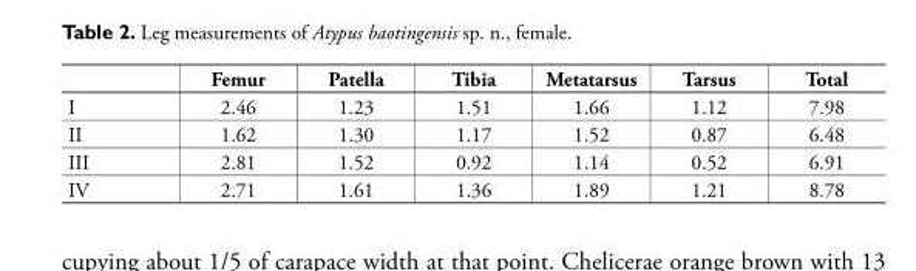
<table><thead><tr><td></td><td>Femur</td><td>Patella</td><td>Tibia</td><td>Metatarsus</td><td>Tarsus</td><td>Total</td></tr></thead><tbody><tr><td>I</td><td>2.46</td><td>1.23</td><td>1.51</td><td>1.66</td><td>1.12</td><td>7.98</td></tr><tr><td>II</td><td>1.62</td><td>1.30</td><td>1.17</td><td>1.52</td><td>0.87</td><td>6.48</td></tr><tr><td>III</td><td>2.81</td><td>1.52</td><td>0.92</td><td>1.14</td><td>0.52</td><td>6.91</td></tr><tr><td>IV</td><td>2.71</td><td>1.61</td><td>1.36</td><td>1.89</td><td>1.21</td><td>8.78</td></tr></tbody></table>